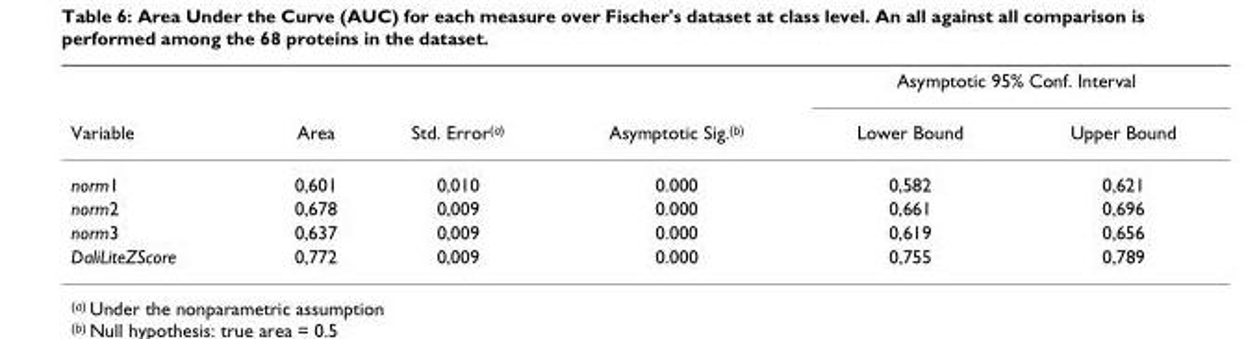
<table><thead><tr><td rowspan="2">Variable</td><td rowspan="2">Area</td><td rowspan="2">Std. Error<sup>(a)</sup></td><td rowspan="2">Asymptotic Sig.<sup>(b)</sup></td><td colspan="2">Asymptotic 95% Conf. Interval</td></tr><tr><td>Lower Bound</td><td>Upper Bound</td></tr></thead><tbody><tr><td>norm1</td><td>0,601</td><td>0,010</td><td>0.000</td><td>0,582</td><td>0,621</td></tr><tr><td>norm2</td><td>0,678</td><td>0,009</td><td>0.000</td><td>0,661</td><td>0,696</td></tr><tr><td>norm3</td><td>0,637</td><td>0,009</td><td>0.000</td><td>0,619</td><td>0,656</td></tr><tr><td>DaliLiteZScore</td><td>0,772</td><td>0,009</td><td>0.000</td><td>0,755</td><td>0,789</td></tr></tbody></table>